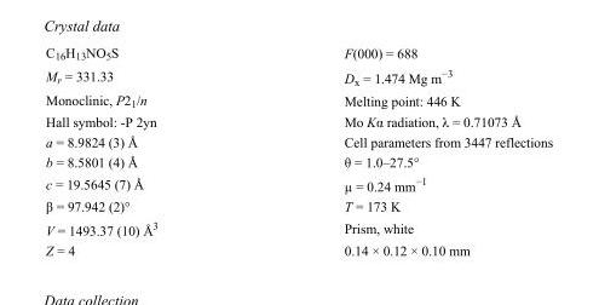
<table><tbody><tr><td>C<sub>16</sub>H<sub>13</sub>NO<sub>5</sub>S</td><td>F(000) = 688</td></tr><tr><td>M<sub>r</sub> = 331.33</td><td>D<sub>x</sub> = 1.474 Mg m<sup>−3</sup></td></tr><tr><td>Monoclinic, P2<sub>1</sub>/n</td><td>Melting point: 446 K</td></tr><tr><td>Hall symbol: -P 2yn</td><td>Mo Kα radiation, λ = 0.71073 Å</td></tr><tr><td>a = 8.9824 (3) Å</td><td>Cell parameters from 3447 reflections</td></tr><tr><td>b = 8.5801 (4) Å</td><td>θ = 1.0–27.5°</td></tr><tr><td>c = 19.5645 (7) Å</td><td>µ = 0.24 mm<sup>−1</sup></td></tr><tr><td>β = 97.942 (2)°</td><td>T = 173 K</td></tr><tr><td>V = 1493.37 (10) Å<sup>3</sup></td><td>Prism, white</td></tr><tr><td>Z = 4</td><td>0.14 × 0.12 × 0.10 mm</td></tr></tbody></table>